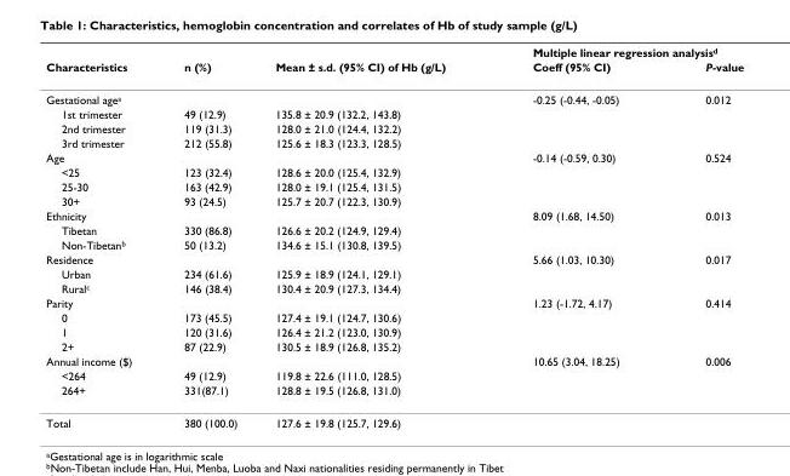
<table><thead><tr><td rowspan="2">Characteristics</td><td rowspan="2">n (%)</td><td rowspan="2">Mean ± s.d. (95% CI) of Hb (g/L)</td><td colspan="2">Multiple linear regression analysis<sup>d</sup></td></tr><tr><td>Coeff (95% CI)</td><td>P-value</td></tr></thead><tbody><tr><td>Gestational age<sup>a</sup></td><td></td><td></td><td>-0.25 (-0.44, -0.05)</td><td>0.012</td></tr><tr><td>1st trimester</td><td>49 (12.9)</td><td>135.8 ± 20.9 (132.2, 143.8)</td><td></td><td></td></tr><tr><td>2nd trimester</td><td>119 (31.3)</td><td>128.0 ± 21.0 (124.4, 132.2)</td><td></td><td></td></tr><tr><td>3rd trimester</td><td>212 (55.8)</td><td>125.6 ± 18.3 (123.3, 128.5)</td><td></td><td></td></tr><tr><td>Age</td><td></td><td></td><td>-0.14 (-0.59, 0.30)</td><td>0.524</td></tr><tr><td>&lt;25</td><td>123 (32.4)</td><td>128.6 ± 20.0 (125.4, 132.9)</td><td></td><td></td></tr><tr><td>25-30</td><td>163 (42.9)</td><td>128.0 ± 19.1 (125.4, 131.5)</td><td></td><td></td></tr><tr><td>30+</td><td>93 (24.5)</td><td>125.7 ± 20.7 (122.3, 130.9)</td><td></td><td></td></tr><tr><td>Ethnicity</td><td></td><td></td><td>8.09 (1.68, 14.50)</td><td>0.013</td></tr><tr><td>Tibetan</td><td>330 (86.8)</td><td>126.6 ± 20.2 (124.9, 129.4)</td><td></td><td></td></tr><tr><td>Non-Tibetan<sup>b</sup></td><td>50 (13.2)</td><td>134.6 ± 15.1 (130.8, 139.5)</td><td></td><td></td></tr><tr><td>Residence</td><td></td><td></td><td>5.66 (1.03, 10.30)</td><td>0.017</td></tr><tr><td>Urban</td><td>234 (61.6)</td><td>125.9 ± 18.9 (124.1, 129.1)</td><td></td><td></td></tr><tr><td>Rural<sup>c</sup></td><td>146 (38.4)</td><td>130.4 ± 20.9 (127.3, 134.4)</td><td></td><td></td></tr><tr><td>Parity</td><td></td><td></td><td>1.23 (-1.72, 4.17)</td><td>0.414</td></tr><tr><td>0</td><td>173 (45.5)</td><td>127.4 ± 19.1 (124.7, 130.6)</td><td></td><td></td></tr><tr><td>1</td><td>120 (31.6)</td><td>126.4 ± 21.2 (123.0, 130.9)</td><td></td><td></td></tr><tr><td>2+</td><td>87 (22.9)</td><td>130.5 ± 18.9 (126.8, 135.2)</td><td></td><td></td></tr><tr><td>Annual income ($)</td><td></td><td></td><td>10.65 (3.04, 18.25)</td><td>0.006</td></tr><tr><td>&lt;264</td><td>49 (12.9)</td><td>119.8 ± 22.6 (111.0, 128.5)</td><td></td><td></td></tr><tr><td>264+</td><td>331(87.1)</td><td>128.8 ± 19.5 (126.8, 131.0)</td><td></td><td></td></tr><tr><td>Total</td><td>380 (100.0)</td><td>127.6 ± 19.8 (125.7, 129.6)</td><td></td><td></td></tr></tbody></table>